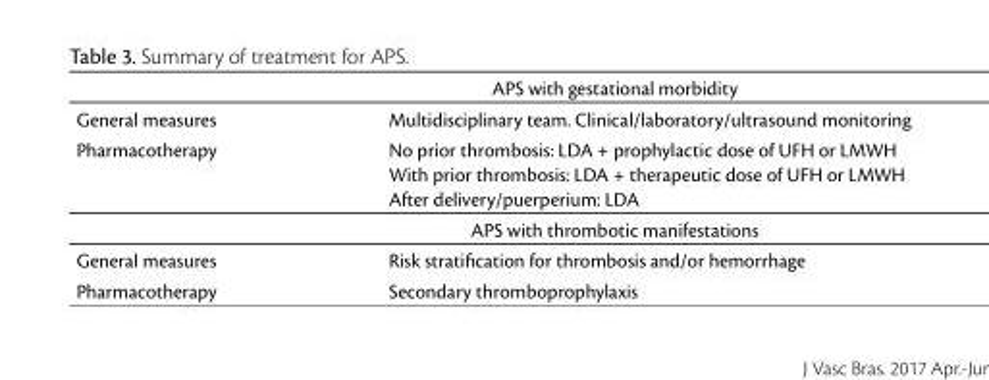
<table><thead><tr><td colspan="2">APS with gestational morbidity</td></tr><tr><td>General measures</td><td>Multidisciplinary team. Clinical/laboratory/ultrasound monitoring</td></tr></thead><tbody><tr><td>Pharmacotherapy</td><td>No prior thrombosis: LDA + prophylactic dose of UFH or LMWH With prior thrombosis: LDA + therapeutic dose of UFH or LMWH After delivery/puerperium: LDA</td></tr><tr><td colspan="2">APS with thrombotic manifestations</td></tr><tr><td>General measures</td><td>Risk stratification for thrombosis and/or hemorrhage</td></tr><tr><td>Pharmacotherapy</td><td>Secondary thromboprophylaxis</td></tr></tbody></table>